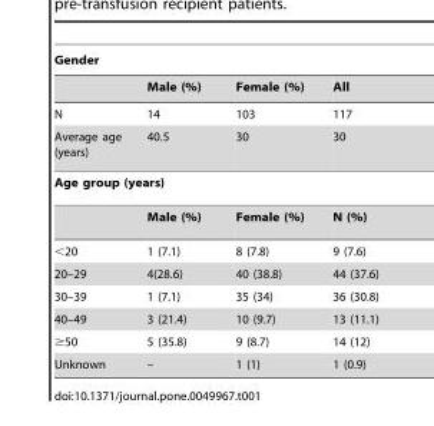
<table><thead><tr><td colspan="4">Gender</td></tr><tr><td></td><td>Male (%)</td><td>Female (%)</td><td>All</td></tr></thead><tbody><tr><td>N</td><td>14</td><td>103</td><td>117</td></tr><tr><td>Average age (years)</td><td>40.5</td><td>30</td><td>30</td></tr><tr><td colspan="4">Age group (years)</td></tr><tr><td></td><td>Male (%)</td><td>Female (%)</td><td>N (%)</td></tr><tr><td>&lt;20</td><td>1 (7.1)</td><td>8 (7.8)</td><td>9 (7.6)</td></tr><tr><td>20–29</td><td>4(28.6)</td><td>40 (38.8)</td><td>44 (37.6)</td></tr><tr><td>30–39</td><td>1 (7.1)</td><td>35 (34)</td><td>36 (30.8)</td></tr><tr><td>40–49</td><td>3 (21.4)</td><td>10 (9.7)</td><td>13 (11.1)</td></tr><tr><td>≥50</td><td>5 (35.8)</td><td>9 (8.7)</td><td>14 (12)</td></tr><tr><td>Unknown</td><td>–</td><td>1 (1)</td><td>1 (0.9)</td></tr></tbody></table>